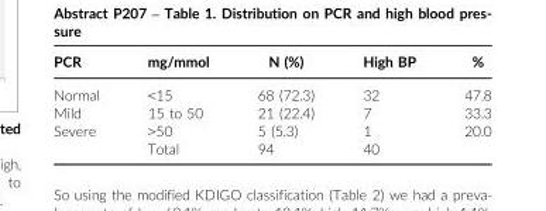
<table><thead><tr><td>PCR</td><td>mg/mmol</td><td>N (%)</td><td>High BP</td><td>%</td></tr></thead><tbody><tr><td>Normal</td><td>&lt;15</td><td>68 (72.3)</td><td>32</td><td>47.8</td></tr><tr><td>Mild</td><td>15 to 50</td><td>21 (22.4)</td><td>7</td><td>33.3</td></tr><tr><td rowspan="2">Severe</td><td>&gt;50</td><td>5 (5.3)</td><td>1</td><td>20.0</td></tr><tr><td>Total</td><td>94</td><td>40</td><td></td></tr></tbody></table>